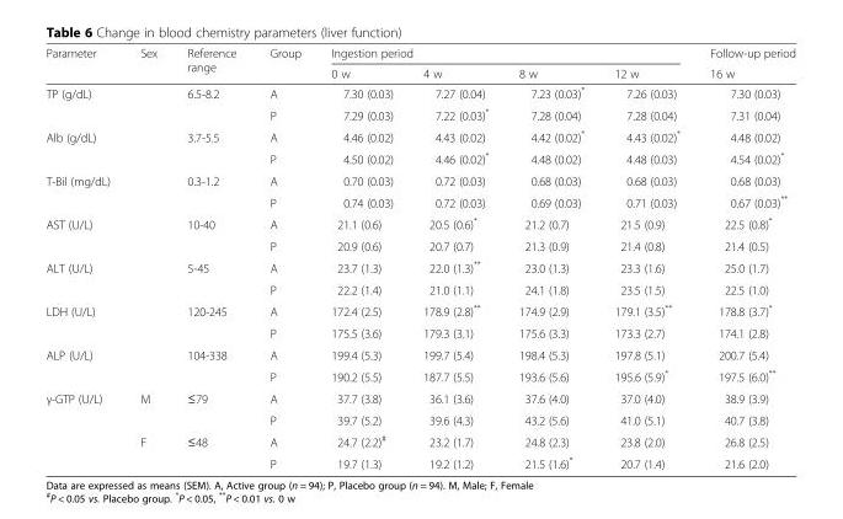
<table><thead><tr><td rowspan="2">Parameter</td><td rowspan="2">Sex</td><td rowspan="2">Reference range</td><td rowspan="2">Group</td><td colspan="4">Ingestion period</td><td rowspan="2">Follow-up period 16 w</td></tr><tr><td>0 w</td><td>4 w</td><td>8 w</td><td>12 w</td></tr></thead><tbody><tr><td rowspan="2">TP (g/dL)</td><td rowspan="2"></td><td rowspan="2">6.5-8.2</td><td>A</td><td>7.30 (0.03)</td><td>7.27 (0.04)</td><td>7.23 (0.03)*</td><td>7.26 (0.03)</td><td>7.30 (0.03)</td></tr><tr><td>P</td><td>7.29 (0.03)</td><td>7.22 (0.03)*</td><td>7.28 (0.04)</td><td>7.28 (0.04)</td><td>7.31 (0.04)</td></tr><tr><td rowspan="2">Alb (g/dL)</td><td rowspan="2"></td><td rowspan="2">3.7-5.5</td><td>A</td><td>4.46 (0.02)</td><td>4.43 (0.02)</td><td>4.42 (0.02)*</td><td>4.43 (0.02)*</td><td>4.48 (0.02)</td></tr><tr><td>P</td><td>4.50 (0.02)</td><td>4.46 (0.02)*</td><td>4.48 (0.02)</td><td>4.48 (0.03)</td><td>4.54 (0.02)*</td></tr><tr><td rowspan="2">T-Bil (mg/dL)</td><td rowspan="2"></td><td rowspan="2">0.3-1.2</td><td>A</td><td>0.70 (0.03)</td><td>0.72 (0.03)</td><td>0.68 (0.03)</td><td>0.68 (0.03)</td><td>0.68 (0.03)</td></tr><tr><td>P</td><td>0.74 (0.03)</td><td>0.72 (0.03)</td><td>0.69 (0.03)</td><td>0.71 (0.03)</td><td>0.67 (0.03)**</td></tr><tr><td rowspan="2">AST (U/L)</td><td rowspan="2"></td><td rowspan="2">10-40</td><td>A</td><td>21.1 (0.6)</td><td>20.5 (0.6)*</td><td>21.2 (0.7)</td><td>21.5 (0.9)</td><td>22.5 (0.8)*</td></tr><tr><td>P</td><td>20.9 (0.6)</td><td>20.7 (0.7)</td><td>21.3 (0.9)</td><td>21.4 (0.8)</td><td>21.4 (0.5)</td></tr><tr><td rowspan="2">ALT (U/L)</td><td rowspan="2"></td><td rowspan="2">5-45</td><td>A</td><td>23.7 (1.3)</td><td>22.0 (1.3)**</td><td>23.0 (1.3)</td><td>23.3 (1.6)</td><td>25.0 (1.7)</td></tr><tr><td>P</td><td>22.2 (1.4)</td><td>21.0 (1.1)</td><td>24.1 (1.8)</td><td>23.5 (1.5)</td><td>22.5 (1.0)</td></tr><tr><td rowspan="2">LDH (U/L)</td><td rowspan="2"></td><td rowspan="2">120-245</td><td>A</td><td>172.4 (2.5)</td><td>178.9 (2.8)**</td><td>174.9 (2.9)</td><td>179.1 (3.5)**</td><td>178.8 (3.7)*</td></tr><tr><td>P</td><td>175.5 (3.6)</td><td>179.3 (3.1)</td><td>175.6 (3.3)</td><td>173.3 (2.7)</td><td>174.1 (2.8)</td></tr><tr><td rowspan="2">ALP (U/L)</td><td rowspan="2"></td><td rowspan="2">104-338</td><td>A</td><td>199.4 (5.3)</td><td>199.7 (5.4)</td><td>198.4 (5.3)</td><td>197.8 (5.1)</td><td>200.7 (5.4)</td></tr><tr><td>P</td><td>190.2 (5.5)</td><td>187.7 (5.5)</td><td>193.6 (5.6)</td><td>195.6 (5.9)*</td><td>197.5 (6.0)**</td></tr><tr><td rowspan="4">γ-GTP (U/L)</td><td rowspan="2">M</td><td rowspan="2">≤79</td><td>A</td><td>37.7 (3.8)</td><td>36.1 (3.6)</td><td>37.6 (4.0)</td><td>37.0 (4.0)</td><td>38.9 (3.9)</td></tr><tr><td>P</td><td>39.7 (5.2)</td><td>39.6 (4.3)</td><td>43.2 (5.6)</td><td>41.0 (5.1)</td><td>40.7 (3.8)</td></tr><tr><td rowspan="2">F</td><td rowspan="2">≤48</td><td>A</td><td>24.7 (2.2)<sup>#</sup></td><td>23.2 (1.7)</td><td>24.8 (2.3)</td><td>23.8 (2.0)</td><td>26.8 (2.5)</td></tr><tr><td>P</td><td>19.7 (1.3)</td><td>19.2 (1.2)</td><td>21.5 (1.6)*</td><td>20.7 (1.4)</td><td>21.6 (2.0)</td></tr></tbody></table>